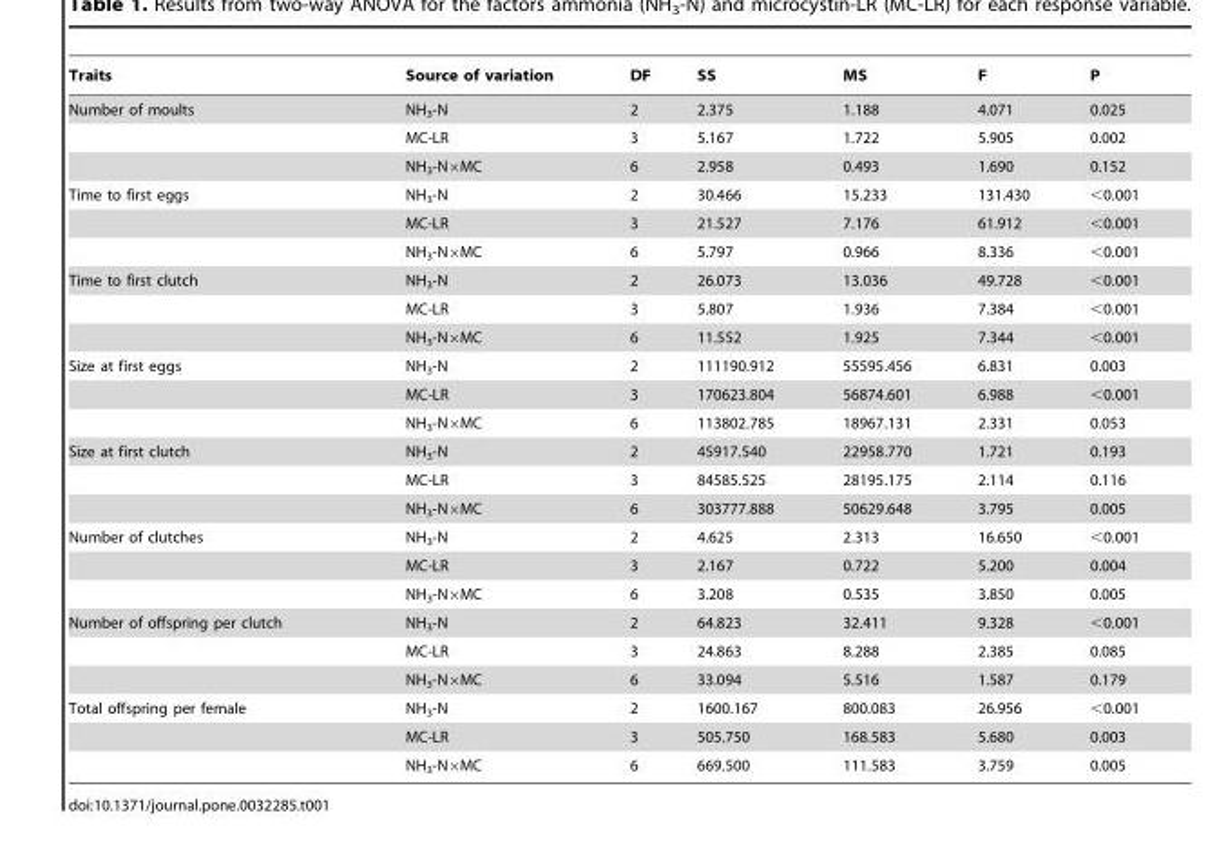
<table><thead><tr><td>Traits</td><td>Source of variation</td><td>DF</td><td>SS</td><td>MS</td><td>F</td><td>P</td></tr></thead><tbody><tr><td rowspan="3">Number of moults</td><td>NH<sub>3</sub>-N</td><td>2</td><td>2.375</td><td>1.188</td><td>4.071</td><td>0.025</td></tr><tr><td>MC-LR</td><td>3</td><td>5.167</td><td>1.722</td><td>5.905</td><td>0.002</td></tr><tr><td>NH<sub>3</sub>-N×MC</td><td>6</td><td>2.958</td><td>0.493</td><td>1.690</td><td>0.152</td></tr><tr><td rowspan="3">Time to first eggs</td><td>NH<sub>3</sub>-N</td><td>2</td><td>30.466</td><td>15.233</td><td>131.430</td><td>&lt;0.001</td></tr><tr><td>MC-LR</td><td>3</td><td>21.527</td><td>7.176</td><td>61.912</td><td>&lt;0.001</td></tr><tr><td>NH<sub>3</sub>-N×MC</td><td>6</td><td>5.797</td><td>0.966</td><td>8.336</td><td>&lt;0.001</td></tr><tr><td rowspan="3">Time to first clutch</td><td>NH<sub>3</sub>-N</td><td>2</td><td>26.073</td><td>13.036</td><td>49.728</td><td>&lt;0.001</td></tr><tr><td>MC-LR</td><td>3</td><td>5.807</td><td>1.936</td><td>7.384</td><td>&lt;0.001</td></tr><tr><td>NH<sub>3</sub>-N×MC</td><td>6</td><td>11.552</td><td>1.925</td><td>7.344</td><td>&lt;0.001</td></tr><tr><td rowspan="3">Size at first eggs</td><td>NH<sub>3</sub>-N</td><td>2</td><td>111190.912</td><td>55595.456</td><td>6.831</td><td>0.003</td></tr><tr><td>MC-LR</td><td>3</td><td>170623.804</td><td>56874.601</td><td>6.988</td><td>&lt;0.001</td></tr><tr><td>NH<sub>3</sub>-N×MC</td><td>6</td><td>113802.785</td><td>18967.131</td><td>2.331</td><td>0.053</td></tr><tr><td rowspan="3">Size at first clutch</td><td>NH<sub>3</sub>-N</td><td>2</td><td>45917.540</td><td>22958.770</td><td>1.721</td><td>0.193</td></tr><tr><td>MC-LR</td><td>3</td><td>84585.525</td><td>28195.175</td><td>2.114</td><td>0.116</td></tr><tr><td>NH<sub>3</sub>-N×MC</td><td>6</td><td>303777.888</td><td>50629.648</td><td>3.795</td><td>0.005</td></tr><tr><td rowspan="3">Number of clutches</td><td>NH<sub>3</sub>-N</td><td>2</td><td>4.625</td><td>2.313</td><td>16.650</td><td>&lt;0.001</td></tr><tr><td>MC-LR</td><td>3</td><td>2.167</td><td>0.722</td><td>5.200</td><td>0.004</td></tr><tr><td>NH<sub>3</sub>-N×MC</td><td>6</td><td>3.208</td><td>0.535</td><td>3.850</td><td>0.005</td></tr><tr><td rowspan="3">Number of offspring per clutch</td><td>NH<sub>3</sub>-N</td><td>2</td><td>64.823</td><td>32.411</td><td>9.328</td><td>&lt;0.001</td></tr><tr><td>MC-LR</td><td>3</td><td>24.863</td><td>8.288</td><td>2.385</td><td>0.085</td></tr><tr><td>NH<sub>3</sub>-N×MC</td><td>6</td><td>33.094</td><td>5.516</td><td>1.587</td><td>0.179</td></tr><tr><td rowspan="3">Total offspring per female</td><td>NH<sub>3</sub>-N</td><td>2</td><td>1600.167</td><td>800.083</td><td>26.956</td><td>&lt;0.001</td></tr><tr><td>MC-LR</td><td>3</td><td>505.750</td><td>168.583</td><td>5.680</td><td>0.003</td></tr><tr><td>NH<sub>3</sub>-N×MC</td><td>6</td><td>669.500</td><td>111.583</td><td>3.759</td><td>0.005</td></tr></tbody></table>